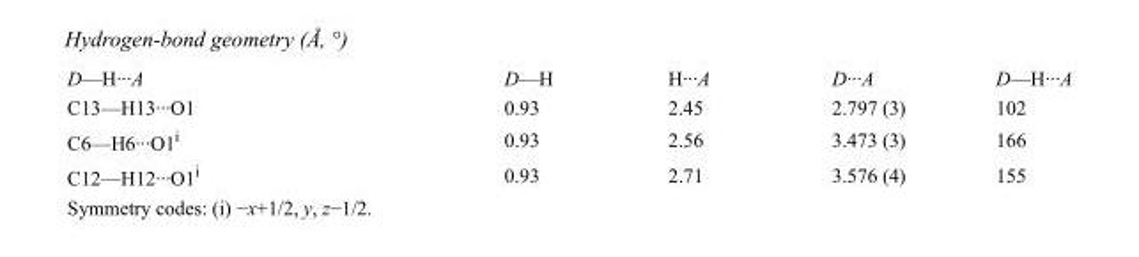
<table><tbody><tr><td>D—H···A</td><td>D—H</td><td>H···A</td><td>D···A</td><td>D—H···A</td></tr><tr><td>C13—H13···O1</td><td>0.93</td><td>2.45</td><td>2.797 (3)</td><td>102</td></tr><tr><td>C6—H6···O1<sup>i</sup></td><td>0.93</td><td>2.56</td><td>3.473 (3)</td><td>166</td></tr><tr><td>C12—H12···O1<sup>i</sup></td><td>0.93</td><td>2.71</td><td>3.576 (4)</td><td>155</td></tr></tbody></table>